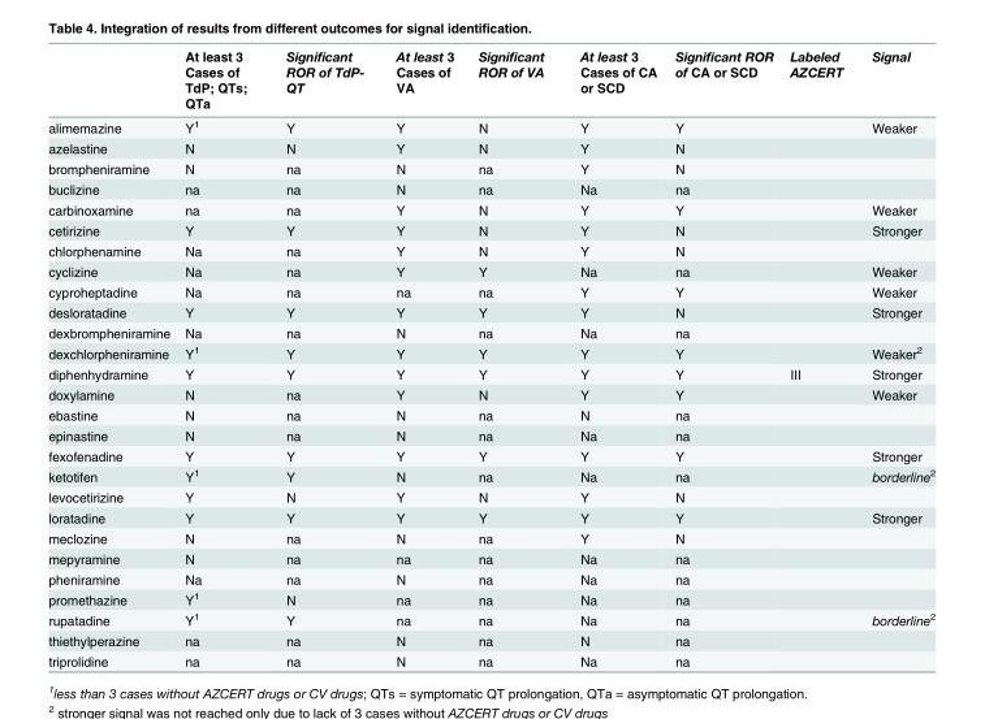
<table><thead><tr><td></td><td>At least 3 Cases of TdP; QTs; QTa</td><td>Significant ROR of TdP- QT</td><td>At least 3 Cases of VA</td><td>Significant ROR of VA</td><td>At least 3 Cases of CA or SCD</td><td>Significant ROR of CA or SCD</td><td>Labeled AZCERT</td><td>Signal</td></tr></thead><tbody><tr><td>alimemazine</td><td>Y<sup>1</sup></td><td>Y</td><td>Y</td><td>N</td><td>Y</td><td>Y</td><td></td><td>Weaker</td></tr><tr><td>azelastine</td><td>N</td><td>N</td><td>Y</td><td>N</td><td>Y</td><td>N</td><td></td><td></td></tr><tr><td>brompheniramine</td><td>N</td><td>na</td><td>N</td><td>na</td><td>Y</td><td>N</td><td></td><td></td></tr><tr><td>buclizine</td><td>na</td><td>na</td><td>N</td><td>na</td><td>Na</td><td>na</td><td></td><td></td></tr><tr><td>carbinoxamine</td><td>na</td><td>na</td><td>Y</td><td>N</td><td>Y</td><td>Y</td><td></td><td>Weaker</td></tr><tr><td>cetirizine</td><td>Y</td><td>Y</td><td>Y</td><td>N</td><td>Y</td><td>N</td><td></td><td>Stronger</td></tr><tr><td>chlorphenamine</td><td>Na</td><td>na</td><td>Y</td><td>N</td><td>Y</td><td>N</td><td></td><td></td></tr><tr><td>cyclizine</td><td>Na</td><td>na</td><td>Y</td><td>Y</td><td>Na</td><td>na</td><td></td><td>Weaker</td></tr><tr><td>cyproheptadine</td><td>Na</td><td>na</td><td>na</td><td>na</td><td>Y</td><td>Y</td><td></td><td>Weaker</td></tr><tr><td>desloratadine</td><td>Y</td><td>Y</td><td>Y</td><td>Y</td><td>Y</td><td>N</td><td></td><td>Stronger</td></tr><tr><td>dexbrompheniramine</td><td>Na</td><td>na</td><td>N</td><td>na</td><td>Na</td><td>na</td><td></td><td></td></tr><tr><td>dexchlorpheniramine</td><td>Y<sup>1</sup></td><td>Y</td><td>Y</td><td>Y</td><td>Y</td><td>Y</td><td></td><td>Weaker<sup>2</sup></td></tr><tr><td>diphenhydramine</td><td>Y</td><td>Y</td><td>Y</td><td>Y</td><td>Y</td><td>Y</td><td>III</td><td>Stronger</td></tr><tr><td>doxylamine</td><td>N</td><td>na</td><td>Y</td><td>N</td><td>Y</td><td>Y</td><td></td><td>Weaker</td></tr><tr><td>ebastine</td><td>N</td><td>na</td><td>N</td><td>na</td><td>N</td><td>na</td><td></td><td></td></tr><tr><td>epinastine</td><td>N</td><td>na</td><td>N</td><td>na</td><td>Na</td><td>na</td><td></td><td></td></tr><tr><td>fexofenadine</td><td>Y</td><td>Y</td><td>Y</td><td>Y</td><td>Y</td><td>Y</td><td></td><td>Stronger</td></tr><tr><td>ketotifen</td><td>Y<sup>1</sup></td><td>Y</td><td>N</td><td>na</td><td>Na</td><td>na</td><td></td><td>borderline<sup>2</sup></td></tr><tr><td>levocetirizine</td><td>Y</td><td>N</td><td>Y</td><td>N</td><td>Y</td><td>N</td><td></td><td></td></tr><tr><td>loratadine</td><td>Y</td><td>Y</td><td>Y</td><td>Y</td><td>Y</td><td>Y</td><td></td><td>Stronger</td></tr><tr><td>meclozine</td><td>N</td><td>na</td><td>N</td><td>na</td><td>Y</td><td>N</td><td></td><td></td></tr><tr><td>mepyramine</td><td>N</td><td>na</td><td>na</td><td>na</td><td>Na</td><td>na</td><td></td><td></td></tr><tr><td>pheniramine</td><td>Na</td><td>na</td><td>N</td><td>na</td><td>Na</td><td>na</td><td></td><td></td></tr><tr><td>promethazine</td><td>Y<sup>1</sup></td><td>N</td><td>na</td><td>na</td><td>Na</td><td>na</td><td></td><td></td></tr><tr><td>rupatadine</td><td>Y<sup>1</sup></td><td>Y</td><td>na</td><td>na</td><td>Na</td><td>na</td><td></td><td>borderline<sup>2</sup></td></tr><tr><td>thiethylperazine</td><td>na</td><td>na</td><td>N</td><td>na</td><td>N</td><td>na</td><td></td><td></td></tr><tr><td>triprolidine</td><td>na</td><td>na</td><td>N</td><td>na</td><td>Na</td><td>na</td><td></td><td></td></tr></tbody></table>